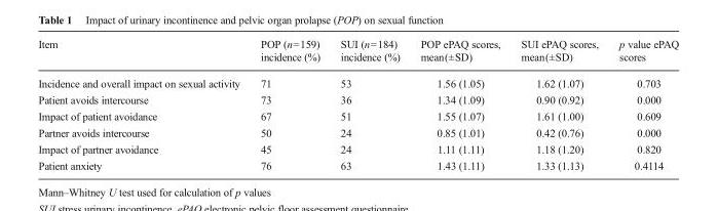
<table><thead><tr><td>Item</td><td>POP (n=159) incidence (%)</td><td>SUI (n=184) incidence (%)</td><td>POP ePAQ scores, mean(±SD)</td><td>SUI ePAQ scores, mean(±SD)</td><td>p value ePAQ scores</td></tr></thead><tbody><tr><td>Incidence and overall impact on sexual activity</td><td>71</td><td>53</td><td>1.56 (1.05)</td><td>1.62 (1.07)</td><td>0.703</td></tr><tr><td>Patient avoids intercourse</td><td>73</td><td>36</td><td>1.34 (1.09)</td><td>0.90 (0.92)</td><td>0.000</td></tr><tr><td>Impact of patient avoidance</td><td>67</td><td>51</td><td>1.55 (1.07)</td><td>1.61 (1.00)</td><td>0.609</td></tr><tr><td>Partner avoids intercourse</td><td>50</td><td>24</td><td>0.85 (1.01)</td><td>0.42 (0.76)</td><td>0.000</td></tr><tr><td>Impact of partner avoidance</td><td>45</td><td>24</td><td>1.11 (1.11)</td><td>1.18 (1.20)</td><td>0.820</td></tr><tr><td>Patient anxiety</td><td>76</td><td>63</td><td>1.43 (1.11)</td><td>1.33 (1.13)</td><td>0.4114</td></tr></tbody></table>